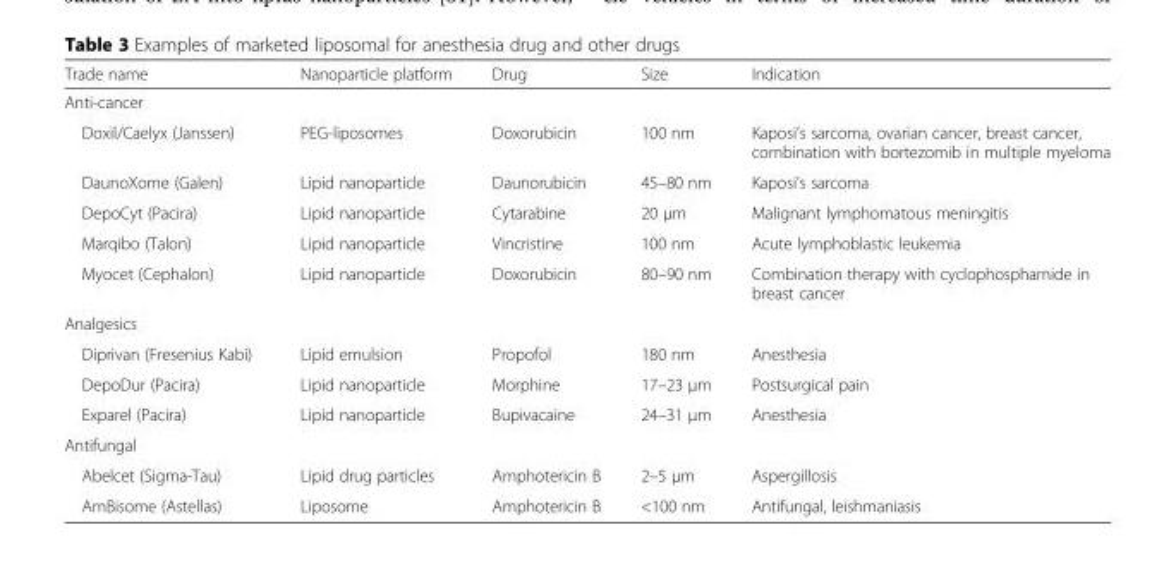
<table><thead><tr><td>Trade name</td><td>Nanoparticle platform</td><td>Drug</td><td>Size</td><td>Indication</td></tr></thead><tbody><tr><td colspan="5">Anti-cancer</td></tr><tr><td>Doxil/Caelyx (Janssen)</td><td>PEG-liposomes</td><td>Doxorubicin</td><td>100 nm</td><td>Kaposi’s sarcoma, ovarian cancer, breast cancer, combination with bortezomib in multiple myeloma</td></tr><tr><td>DaunoXome (Galen)</td><td>Lipid nanoparticle</td><td>Daunorubicin</td><td>45–80 nm</td><td>Kaposi’s sarcoma</td></tr><tr><td>DepoCyt (Pacira)</td><td>Lipid nanoparticle</td><td>Cytarabine</td><td>20 μm</td><td>Malignant lymphomatous meningitis</td></tr><tr><td>Marqibo (Talon)</td><td>Lipid nanoparticle</td><td>Vincristine</td><td>100 nm</td><td>Acute lymphoblastic leukemia</td></tr><tr><td>Myocet (Cephalon)</td><td>Lipid nanoparticle</td><td>Doxorubicin</td><td>80–90 nm</td><td>Combination therapy with cyclophosphamide in breast cancer</td></tr><tr><td colspan="5">Analgesics</td></tr><tr><td>Diprivan (Fresenius Kabi)</td><td>Lipid emulsion</td><td>Propofol</td><td>180 nm</td><td>Anesthesia</td></tr><tr><td>DepoDur (Pacira)</td><td>Lipid nanoparticle</td><td>Morphine</td><td>17–23 μm</td><td>Postsurgical pain</td></tr><tr><td>Exparel (Pacira)</td><td>Lipid nanoparticle</td><td>Bupivacaine</td><td>24–31 μm</td><td>Anesthesia</td></tr><tr><td colspan="5">Antifungal</td></tr><tr><td>Abelcet (Sigma-Tau)</td><td>Lipid drug particles</td><td>Amphotericin B</td><td>2–5 μm</td><td>Aspergillosis</td></tr><tr><td>AmBisome (Astellas)</td><td>Liposome</td><td>Amphotericin B</td><td>&lt;100 nm</td><td>Antifungal, leishmaniasis</td></tr></tbody></table>